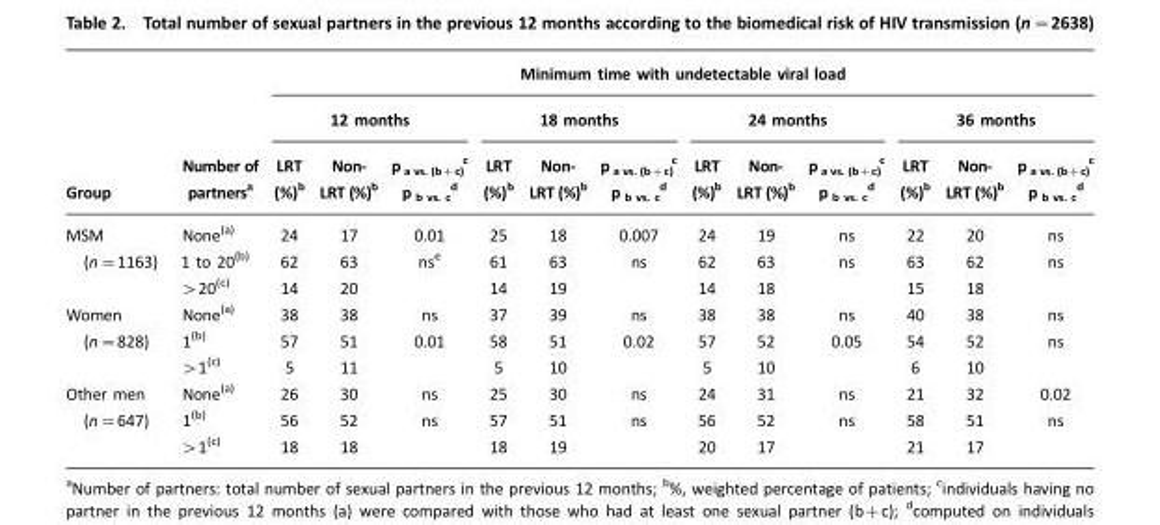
<table><thead><tr><td rowspan="3">Group</td><td rowspan="3">Number of partners<sup>a</sup></td><td colspan="12">Minimum time with undetectable viral load</td></tr><tr><td colspan="3">12 months</td><td colspan="3">18 months</td><td colspan="3">24 months</td><td colspan="3">36 months</td></tr><tr><td>LRT (%)<sup>b</sup></td><td>Non- LRT (%)<sup>b</sup></td><td>p <sub>a vs. (b+c)</sub> <sup>c</sup> p <sub>b vs. c</sub> <sup>d</sup></td><td>LRT (%)<sup>b</sup></td><td>Non- LRT (%)<sup>b</sup></td><td>p <sub>a vs. (b+c)</sub> <sup>c</sup> p <sub>b vs. c</sub> <sup>d</sup></td><td>LRT (%)<sup>b</sup></td><td>Non- LRT (%)<sup>b</sup></td><td>p <sub>a vs. (b+c)</sub> <sup>c</sup> p <sub>b vs. c</sub> <sup>d</sup></td><td>LRT (%)<sup>b</sup></td><td>Non- LRT (%)<sup>b</sup></td><td>p <sub>a vs. (b+c)</sub> <sup>c</sup> p <sub>b vs. c</sub> <sup>d</sup></td></tr></thead><tbody><tr><td>MSM (n=1163)</td><td>None<sup>(a)</sup> 1 to 20<sup>(b)</sup> &gt;20<sup>(c)</sup></td><td>24 62 14</td><td>17 63 20</td><td>0.01 ns<sup>e</sup></td><td>25 61 14</td><td>18 63 19</td><td>0.007 ns</td><td>24 62 14</td><td>19 63 18</td><td>ns ns</td><td>22 63 15</td><td>20 62 18</td><td>ns ns</td></tr><tr><td>Women (n=828)</td><td>None<sup>(a)</sup> 1<sup>(b)</sup> &gt;1<sup>(c)</sup></td><td>38 57 5</td><td>38 51 11</td><td>ns 0.01</td><td>37 58 5</td><td>39 51 10</td><td>ns 0.02</td><td>38 57 5</td><td>38 52 10</td><td>ns 0.05</td><td>40 54 6</td><td>38 52 10</td><td>ns ns</td></tr><tr><td>Other men (n=647)</td><td>None<sup>(a)</sup> 1<sup>(b)</sup> &gt;1<sup>(c)</sup></td><td>26 56 18</td><td>30 52 18</td><td>ns ns</td><td>25 57 18</td><td>30 51 19</td><td>ns ns</td><td>24 56 20</td><td>31 52 17</td><td>ns ns</td><td>21 58 21</td><td>32 51 17</td><td>0.02 ns</td></tr></tbody></table>